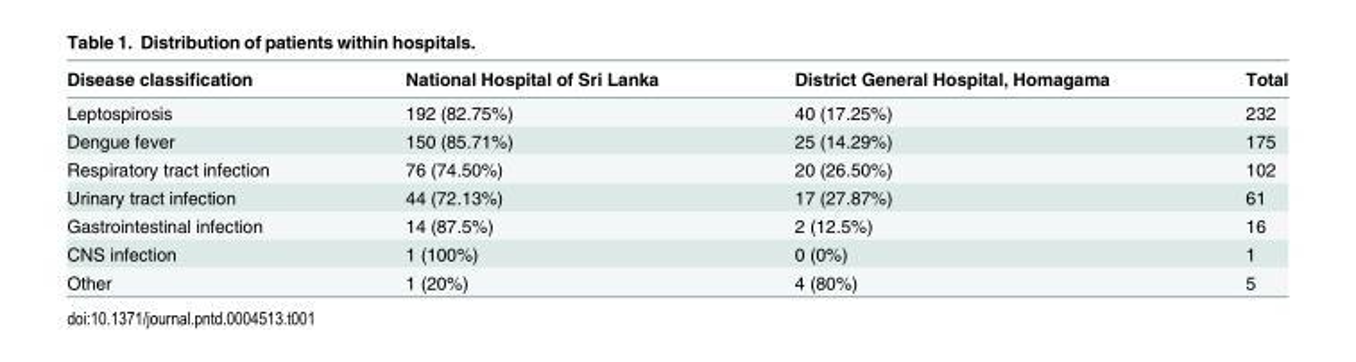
<table><thead><tr><td>Disease classification</td><td>National Hospital of Sri Lanka</td><td>District General Hospital, Homagama</td><td>Total</td></tr></thead><tbody><tr><td>Leptospirosis</td><td>192 (82.75%)</td><td>40 (17.25%)</td><td>232</td></tr><tr><td>Dengue fever</td><td>150 (85.71%)</td><td>25 (14.29%)</td><td>175</td></tr><tr><td>Respiratory tract infection</td><td>76 (74.50%)</td><td>20 (26.50%)</td><td>102</td></tr><tr><td>Urinary tract infection</td><td>44 (72.13%)</td><td>17 (27.87%)</td><td>61</td></tr><tr><td>Gastrointestinal infection</td><td>14 (87.5%)</td><td>2 (12.5%)</td><td>16</td></tr><tr><td>CNS infection</td><td>1 (100%)</td><td>0 (0%)</td><td>1</td></tr><tr><td>Other</td><td>1 (20%)</td><td>4 (80%)</td><td>5</td></tr></tbody></table>